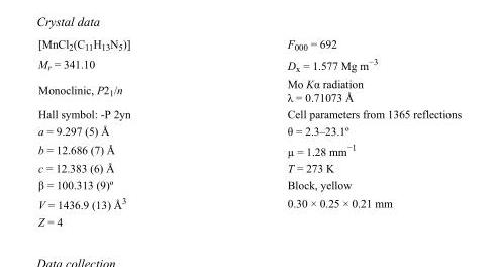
<table><tbody><tr><td>[MnCl<sub>2</sub>(C<sub>11</sub>H<sub>13</sub>N<sub>5</sub>)]</td><td>F000 = 692</td></tr><tr><td>M<sub>r</sub> = 341.10</td><td>D<sub>x</sub> = 1.577 Mg m<sup>−3</sup></td></tr><tr><td>Monoclinic, P2<sub>1</sub>/n</td><td>Mo Kα radiation λ = 0.71073 Å</td></tr><tr><td>Hall symbol: -P 2yn</td><td>Cell parameters from 1365 reflections</td></tr><tr><td>a = 9.297 (5) Å</td><td>θ = 2.3–23.1º</td></tr><tr><td>b = 12.686 (7) Å</td><td>µ = 1.28 mm<sup>−1</sup></td></tr><tr><td>c = 12.383 (6) Å</td><td>T = 273 K</td></tr><tr><td>β = 100.313 (9)º</td><td>Block, yellow</td></tr><tr><td>V = 1436.9 (13) Å<sup>3</sup></td><td>0.30 × 0.25 × 0.21 mm</td></tr><tr><td>Z = 4</td><td></td></tr></tbody></table>